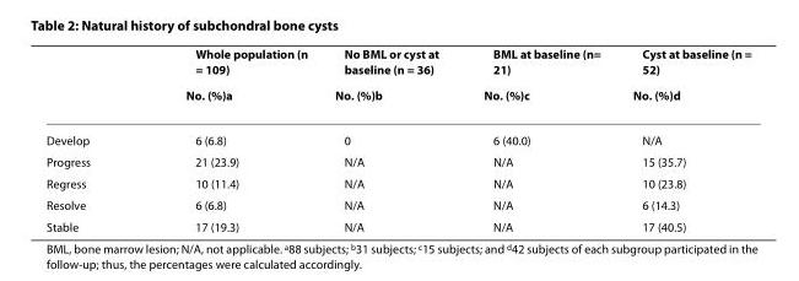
<table><thead><tr><td rowspan="2"></td><td rowspan="2">Whole population (n = 109) No. (%)<sup>a</sup></td><td rowspan="2">No BML or cyst at baseline (n = 36) No. (%)<sup>b</sup></td><td rowspan="2">BML at baseline (n= 21) No. (%)<sup>c</sup></td><td rowspan="2">Cyst at baseline (n = 52) No. (%)<sup>d</sup></td></tr><tr></tr></thead><tbody><tr><td>Develop</td><td>6 (6.8)</td><td>0</td><td>6 (40.0)</td><td>N/A</td></tr><tr><td>Progress</td><td>21 (23.9)</td><td>N/A</td><td>N/A</td><td>15 (35.7)</td></tr><tr><td>Regress</td><td>10 (11.4)</td><td>N/A</td><td>N/A</td><td>10 (23.8)</td></tr><tr><td>Resolve</td><td>6 (6.8)</td><td>N/A</td><td>N/A</td><td>6 (14.3)</td></tr><tr><td>Stable</td><td>17 (19.3)</td><td>N/A</td><td>N/A</td><td>17 (40.5)</td></tr></tbody></table>